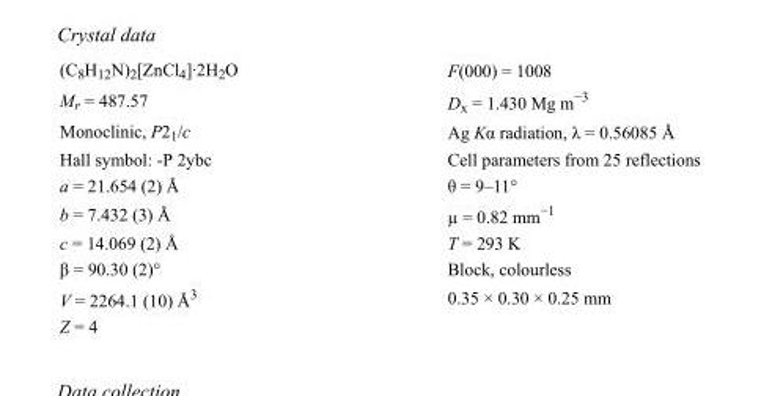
<table><tbody><tr><td>(C<sub>8</sub>H<sub>12</sub>N)<sub>2</sub>[ZnCl<sub>4</sub>]·2H<sub>2</sub>O</td><td>F(000) = 1008</td></tr><tr><td>M<sub>r</sub> = 487.57</td><td>D<sub>x</sub> = 1.430 Mg m<sup>−3</sup></td></tr><tr><td>Monoclinic, P2<sub>1</sub>/c</td><td>Ag Kα radiation, λ = 0.56085 Å</td></tr><tr><td>Hall symbol: -P 2ybc</td><td>Cell parameters from 25 reflections</td></tr><tr><td>a = 21.654 (2) Å</td><td>θ = 9–11°</td></tr><tr><td>b = 7.432 (3) Å</td><td>µ = 0.82 mm<sup>−1</sup></td></tr><tr><td>c = 14.069 (2) Å</td><td>T = 293 K</td></tr><tr><td>β = 90.30 (2)°</td><td>Block, colourless</td></tr><tr><td>V = 2264.1 (10) Å<sup>3</sup></td><td>0.35 × 0.30 × 0.25 mm</td></tr><tr><td>Z = 4</td><td></td></tr></tbody></table>